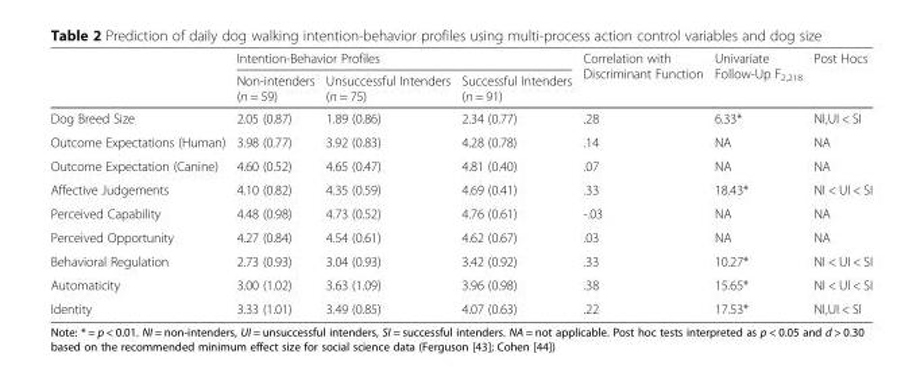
<table><thead><tr><td rowspan="2"></td><td colspan="3">Intention-Behavior Profiles</td><td rowspan="2">Correlation with Discriminant Function</td><td rowspan="2">Univariate Follow-Up F<sub>2,218</sub></td><td rowspan="2">Post Hocs</td></tr><tr><td>Non-intenders (n = 59)</td><td>Unsuccessful Intenders (n = 75)</td><td>Successful Intenders (n = 91)</td></tr></thead><tbody><tr><td>Dog Breed Size</td><td>2.05 (0.87)</td><td>1.89 (0.86)</td><td>2.34 (0.77)</td><td>.28</td><td>6.33*</td><td>NI,UI &lt; SI</td></tr><tr><td>Outcome Expectations (Human)</td><td>3.98 (0.77)</td><td>3.92 (0.83)</td><td>4.28 (0.78)</td><td>.14</td><td>NA</td><td>NA</td></tr><tr><td>Outcome Expectation (Canine)</td><td>4.60 (0.52)</td><td>4.65 (0.47)</td><td>4.81 (0.40)</td><td>.07</td><td>NA</td><td>NA</td></tr><tr><td>Affective Judgements</td><td>4.10 (0.82)</td><td>4.35 (0.59)</td><td>4.69 (0.41)</td><td>.33</td><td>18.43*</td><td>NI &lt; UI &lt; SI</td></tr><tr><td>Perceived Capability</td><td>4.48 (0.98)</td><td>4.73 (0.52)</td><td>4.76 (0.61)</td><td>-.03</td><td>NA</td><td>NA</td></tr><tr><td>Perceived Opportunity</td><td>4.27 (0.84)</td><td>4.54 (0.61)</td><td>4.62 (0.67)</td><td>.03</td><td>NA</td><td>NA</td></tr><tr><td>Behavioral Regulation</td><td>2.73 (0.93)</td><td>3.04 (0.93)</td><td>3.42 (0.92)</td><td>.33</td><td>10.27*</td><td>NI &lt; UI &lt; SI</td></tr><tr><td>Automaticity</td><td>3.00 (1.02)</td><td>3.63 (1.09)</td><td>3.96 (0.98)</td><td>.38</td><td>15.65*</td><td>NI &lt; UI &lt; SI</td></tr><tr><td>Identity</td><td>3.33 (1.01)</td><td>3.49 (0.85)</td><td>4.07 (0.63)</td><td>.22</td><td>17.53*</td><td>NI,UI &lt; SI</td></tr></tbody></table>